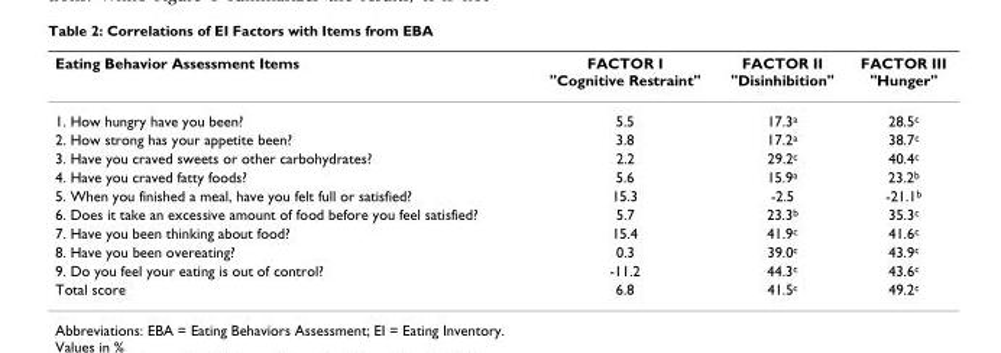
<table><thead><tr><td>Eating Behavior Assessment Items</td><td>FACTOR I &quot;Cognitive Restraint&quot;</td><td>FACTOR II &quot;Disinhibition&quot;</td><td>FACTOR III &quot;Hunger&quot;</td></tr></thead><tbody><tr><td>1. How hungry have you been?</td><td>5.5</td><td>17.3<sup>a</sup></td><td>28.5<sup>c</sup></td></tr><tr><td>2. How strong has your appetite been?</td><td>3.8</td><td>17.2<sup>a</sup></td><td>38.7<sup>c</sup></td></tr><tr><td>3. Have you craved sweets or other carbohydrates?</td><td>2.2</td><td>29.2<sup>c</sup></td><td>40.4<sup>c</sup></td></tr><tr><td>4. Have you craved fatty foods?</td><td>5.6</td><td>15.9<sup>a</sup></td><td>23.2<sup>b</sup></td></tr><tr><td>5. When you finished a meal, have you felt full or satisfied?</td><td>15.3</td><td>-2.5</td><td>-21.1<sup>b</sup></td></tr><tr><td>6. Does it take an excessive amount of food before you feel satisfied?</td><td>5.7</td><td>23.3<sup>b</sup></td><td>35.3<sup>c</sup></td></tr><tr><td>7. Have you been thinking about food?</td><td>15.4</td><td>41.9<sup>c</sup></td><td>41.6<sup>c</sup></td></tr><tr><td>8. Have you been overeating?</td><td>0.3</td><td>39.0<sup>c</sup></td><td>43.9<sup>c</sup></td></tr><tr><td>9. Do you feel your eating is out of control?</td><td>-11.2</td><td>44.3<sup>c</sup></td><td>43.6<sup>c</sup></td></tr><tr><td>Total score</td><td>6.8</td><td>41.5<sup>c</sup></td><td>49.2<sup>c</sup></td></tr></tbody></table>